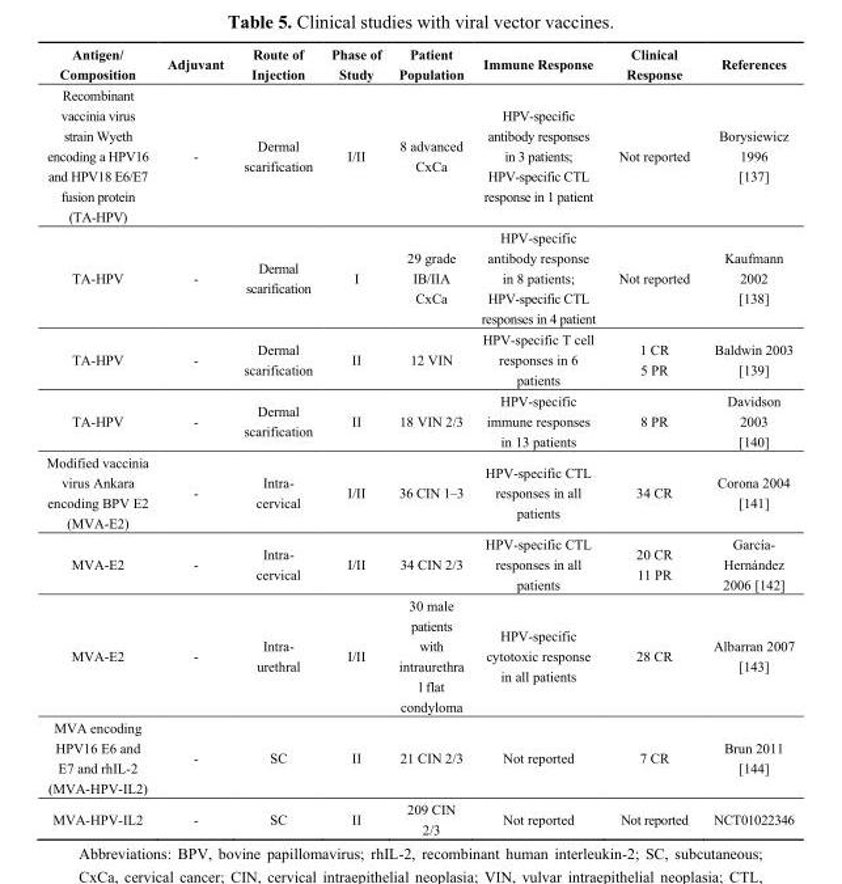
<table><thead><tr><td>Antigen/ Composition</td><td>Adjuvant</td><td>Route of Injection</td><td>Phase of Study</td><td>Patient Population</td><td>Immune Response</td><td>Clinical Response</td><td>References</td></tr></thead><tbody><tr><td>Recombinant vaccinia virus strain Wyeth encoding a HPV16 and HPV18 E6/E7 fusion protein (TA-HPV)</td><td>-</td><td>Dermal scarification</td><td>I/II</td><td>8 advanced CxCa</td><td>HPV-specific antibody responses in 3 patients; HPV-specific CTL response in 1 patient</td><td>Not reported</td><td>Borysiewicz 1996 [137]</td></tr><tr><td>TA-HPV</td><td>-</td><td>Dermal scarification</td><td>I</td><td>29 grade IB/IIA CxCa</td><td>HPV-specific antibody response in 8 patients; HPV-specific CTL responses in 4 patient</td><td>Not reported</td><td>Kaufmann 2002 [138]</td></tr><tr><td>TA-HPV</td><td>-</td><td>Dermal scarification</td><td>II</td><td>12 VIN</td><td>HPV-specific T cell responses in 6 patients</td><td>1 CR 5 PR</td><td>Baldwin 2003 [139]</td></tr><tr><td>TA-HPV</td><td>-</td><td>Dermal scarification</td><td>II</td><td>18 VIN 2/3</td><td>HPV-specific immune responses in 13 patients</td><td>8 PR</td><td>Davidson 2003 [140]</td></tr><tr><td>Modified vaccinia virus Ankara encoding BPV E2 (MVA-E2)</td><td>-</td><td>Intra- cervical</td><td>I/II</td><td>36 CIN 1–3</td><td>HPV-specific CTL responses in all patients</td><td>34 CR</td><td>Corona 2004 [141]</td></tr><tr><td>MVA-E2</td><td>-</td><td>Intra- cervical</td><td>I/II</td><td>34 CIN 2/3</td><td>HPV-specific CTL responses in all patients</td><td>20 CR 11 PR</td><td>García- Hernández 2006 [142]</td></tr><tr><td>MVA-E2</td><td>-</td><td>Intra- urethral</td><td>I/II</td><td>30 male patients with intraurethra l flat condyloma</td><td>HPV-specific cytotoxic response in all patients</td><td>28 CR</td><td>Albarran 2007 [143]</td></tr><tr><td>MVA encoding HPV16 E6 and E7 and rhIL-2 (MVA-HPV-IL2)</td><td>-</td><td>SC</td><td>II</td><td>21 CIN 2/3</td><td>Not reported</td><td>7 CR</td><td>Brun 2011 [144]</td></tr><tr><td>MVA-HPV-IL2</td><td>-</td><td>SC</td><td>II</td><td>209 CIN 2/3</td><td>Not reported</td><td>Not reported</td><td>NCT01022346</td></tr></tbody></table>